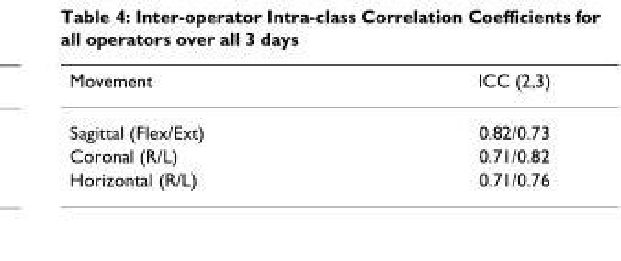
<table><thead><tr><td>Movement</td><td>ICC (2,3)</td></tr></thead><tbody><tr><td>Sagittal (Flex/Ext)</td><td>0.82/0.73</td></tr><tr><td>Coronal (R/L)</td><td>0.71/0.82</td></tr><tr><td>Horizontal (R/L)</td><td>0.71/0.76</td></tr></tbody></table>